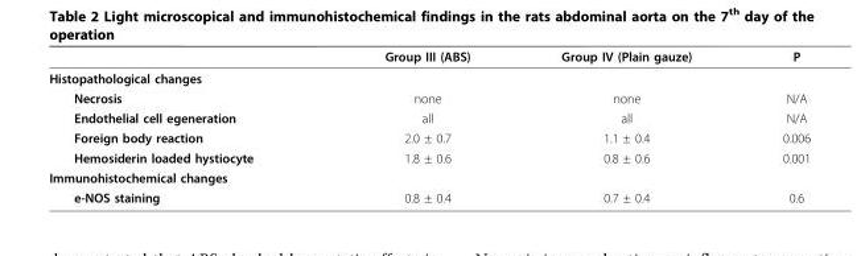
<table><thead><tr><td></td><td>Group III (ABS)</td><td>Group IV (Plain gauze)</td><td>P</td></tr></thead><tbody><tr><td colspan="4">Histopathological changes</td></tr><tr><td>Necrosis</td><td>none</td><td>none</td><td>N/A</td></tr><tr><td>Endothelial cell egeneration</td><td>all</td><td>all</td><td>N/A</td></tr><tr><td>Foreign body reaction</td><td>2.0 ± 0.7</td><td>1.1 ± 0.4</td><td>0.006</td></tr><tr><td>Hemosiderin loaded hystiocyte</td><td>1.8 ± 0.6</td><td>0.8 ± 0.6</td><td>0.001</td></tr><tr><td colspan="4">Immunohistochemical changes</td></tr><tr><td>e-NOS staining</td><td>0.8 ± 0.4</td><td>0.7 ± 0.4</td><td>0.6</td></tr></tbody></table>